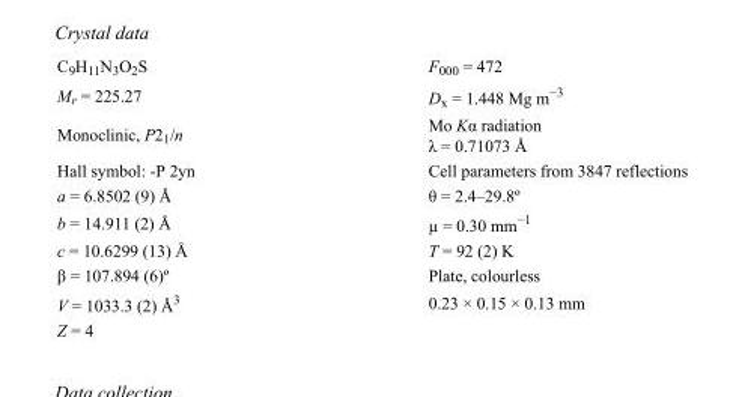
<table><tbody><tr><td>C<sub>9</sub>H<sub>11</sub>N<sub>3</sub>O<sub>2</sub>S</td><td>F000 = 472</td></tr><tr><td>M<sub>r</sub> = 225.27</td><td>D<sub>x</sub> = 1.448 Mg m<sup>−3</sup></td></tr><tr><td>Monoclinic, P2<sub>1</sub>/n</td><td>Mo Kα radiation λ = 0.71073 Å</td></tr><tr><td>Hall symbol: -P 2yn</td><td>Cell parameters from 3847 reflections</td></tr><tr><td>a = 6.8502 (9) Å</td><td>θ = 2.4–29.8º</td></tr><tr><td>b = 14.911 (2) Å</td><td>µ = 0.30 mm<sup>−1</sup></td></tr><tr><td>c = 10.6299 (13) Å</td><td>T = 92 (2) K</td></tr><tr><td>β = 107.894 (6)º</td><td>Plate, colourless</td></tr><tr><td>V = 1033.3 (2) Å<sup>3</sup></td><td>0.23 × 0.15 × 0.13 mm</td></tr><tr><td>Z = 4</td><td></td></tr></tbody></table>